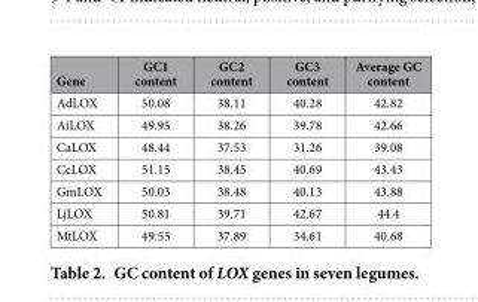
<table><thead><tr><td>Gene</td><td>GC1 content</td><td>GC2 content</td><td>GC3 content</td><td>Average GC content</td></tr></thead><tbody><tr><td>AdLOX</td><td>50.08</td><td>38.11</td><td>40.28</td><td>42.82</td></tr><tr><td>AiLOX</td><td>49.95</td><td>38.26</td><td>39.78</td><td>42.66</td></tr><tr><td>CaLOX</td><td>48.44</td><td>37.53</td><td>31.26</td><td>39.08</td></tr><tr><td>CcLOX</td><td>51.15</td><td>38.45</td><td>40.69</td><td>43.43</td></tr><tr><td>GmLOX</td><td>50.03</td><td>38.48</td><td>40.13</td><td>43.88</td></tr><tr><td>LjLOX</td><td>50.81</td><td>39.71</td><td>42.67</td><td>44.4</td></tr><tr><td>MtLOX</td><td>49.55</td><td>37.89</td><td>34.61</td><td>40.68</td></tr></tbody></table>